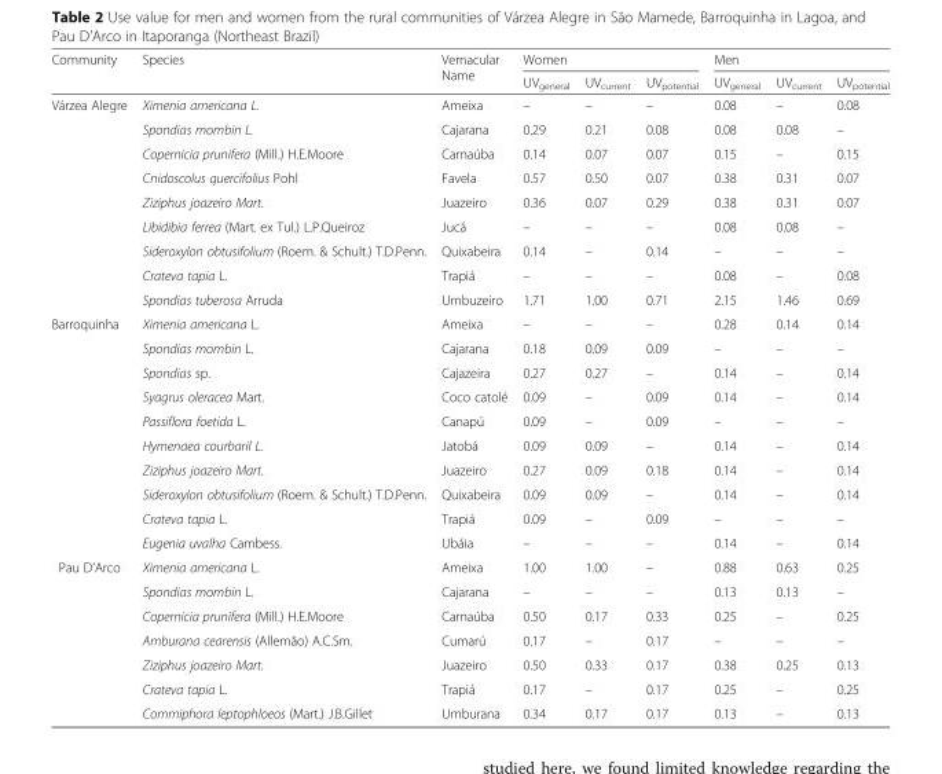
<table><thead><tr><td rowspan="2">Community</td><td rowspan="2">Species</td><td rowspan="2">Vernacular Name</td><td colspan="3">Women</td><td colspan="3">Men</td></tr><tr><td>UV<sub>general</sub></td><td>UV<sub>current</sub></td><td>UV<sub>potential</sub></td><td>UV<sub>general</sub></td><td>UV<sub>current</sub></td><td>UV<sub>potential</sub></td></tr></thead><tbody><tr><td rowspan="9">Várzea Alegre</td><td>Ximenia americana L.</td><td>Ameixa</td><td>–</td><td>–</td><td>–</td><td>0.08</td><td>–</td><td>0.08</td></tr><tr><td>Spondias mombin L.</td><td>Cajarana</td><td>0.29</td><td>0.21</td><td>0.08</td><td>0.08</td><td>0.08</td><td>–</td></tr><tr><td>Copernicia prunifera (Mill.) H.E.Moore</td><td>Carnaúba</td><td>0.14</td><td>0.07</td><td>0.07</td><td>0.15</td><td>–</td><td>0.15</td></tr><tr><td>Cnidoscolus quercifolius Pohl</td><td>Favela</td><td>0.57</td><td>0.50</td><td>0.07</td><td>0.38</td><td>0.31</td><td>0.07</td></tr><tr><td>Ziziphus joazeiro Mart.</td><td>Juazeiro</td><td>0.36</td><td>0.07</td><td>0.29</td><td>0.38</td><td>0.31</td><td>0.07</td></tr><tr><td>Libidibia ferrea (Mart. ex Tul.) L.P.Queiroz</td><td>Jucá</td><td>–</td><td>–</td><td>–</td><td>0.08</td><td>0.08</td><td>–</td></tr><tr><td>Sideroxylon obtusifolium (Roem. &amp; Schult.) T.D.Penn.</td><td>Quixabeira</td><td>0.14</td><td>–</td><td>0.14</td><td>–</td><td>–</td><td>–</td></tr><tr><td>Crateva tapia L.</td><td>Trapiá</td><td>–</td><td>–</td><td>–</td><td>0.08</td><td>–</td><td>0.08</td></tr><tr><td>Spondias tuberosa Arruda</td><td>Umbuzeiro</td><td>1.71</td><td>1.00</td><td>0.71</td><td>2.15</td><td>1.46</td><td>0.69</td></tr><tr><td rowspan="10">Barroquinha</td><td>Ximenia americana L.</td><td>Ameixa</td><td>–</td><td>–</td><td>–</td><td>0.28</td><td>0.14</td><td>0.14</td></tr><tr><td>Spondias mombin L.</td><td>Cajarana</td><td>0.18</td><td>0.09</td><td>0.09</td><td>–</td><td>–</td><td>–</td></tr><tr><td>Spondias sp.</td><td>Cajazeira</td><td>0.27</td><td>0.27</td><td>–</td><td>0.14</td><td>–</td><td>0.14</td></tr><tr><td>Syagrus oleracea Mart.</td><td>Coco catolé</td><td>0.09</td><td>–</td><td>0.09</td><td>0.14</td><td>–</td><td>0.14</td></tr><tr><td>Passiflora foetida L.</td><td>Canapú</td><td>0.09</td><td>–</td><td>0.09</td><td>–</td><td>–</td><td>–</td></tr><tr><td>Hymenaea courbaril L.</td><td>Jatobá</td><td>0.09</td><td>0.09</td><td>–</td><td>0.14</td><td>–</td><td>0.14</td></tr><tr><td>Ziziphus joazeiro Mart.</td><td>Juazeiro</td><td>0.27</td><td>0.09</td><td>0.18</td><td>0.14</td><td>–</td><td>0.14</td></tr><tr><td>Sideroxylon obtusifolium (Roem. &amp; Schult.) T.D.Penn.</td><td>Quixabeira</td><td>0.09</td><td>0.09</td><td>–</td><td>0.14</td><td>–</td><td>0.14</td></tr><tr><td>Crateva tapia L.</td><td>Trapiá</td><td>0.09</td><td>–</td><td>0.09</td><td>–</td><td>–</td><td>–</td></tr><tr><td>Eugenia uvalha Cambess.</td><td>Ubáia</td><td>–</td><td>–</td><td>–</td><td>0.14</td><td>–</td><td>0.14</td></tr><tr><td rowspan="7">Pau D’Arco</td><td>Ximenia americana L.</td><td>Ameixa</td><td>1.00</td><td>1.00</td><td>–</td><td>0.88</td><td>0.63</td><td>0.25</td></tr><tr><td>Spondias mombin L.</td><td>Cajarana</td><td>–</td><td>–</td><td>–</td><td>0.13</td><td>0.13</td><td>–</td></tr><tr><td>Copernicia prunifera (Mill.) H.E.Moore</td><td>Carnaúba</td><td>0.50</td><td>0.17</td><td>0.33</td><td>0.25</td><td>–</td><td>0.25</td></tr><tr><td>Amburana cearensis (Allemão) A.C.Sm.</td><td>Cumarú</td><td>0.17</td><td>–</td><td>0.17</td><td>–</td><td>–</td><td>–</td></tr><tr><td>Ziziphus joazeiro Mart.</td><td>Juazeiro</td><td>0.50</td><td>0.33</td><td>0.17</td><td>0.38</td><td>0.25</td><td>0.13</td></tr><tr><td>Crateva tapia L.</td><td>Trapiá</td><td>0.17</td><td>–</td><td>0.17</td><td>0.25</td><td>–</td><td>0.25</td></tr><tr><td>Commiphora leptophloeos (Mart.) J.B.Gillet</td><td>Umburana</td><td>0.34</td><td>0.17</td><td>0.17</td><td>0.13</td><td>–</td><td>0.13</td></tr></tbody></table>